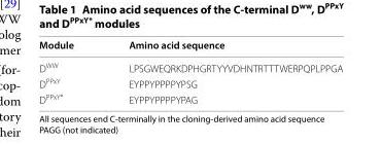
<table><thead><tr><td>Module</td><td>Amino acid sequence</td></tr></thead><tbody><tr><td>D<sup>WW</sup></td><td>LPSGWEQRKDPHGRTYYVDHNTRTTTWERPQPLPPGA</td></tr><tr><td>D<sup>PPxY</sup></td><td>EYPPYPPPPYPSG</td></tr><tr><td>D<sup>PPxY*</sup></td><td>EYPPYPPPPYPAG</td></tr></tbody></table>